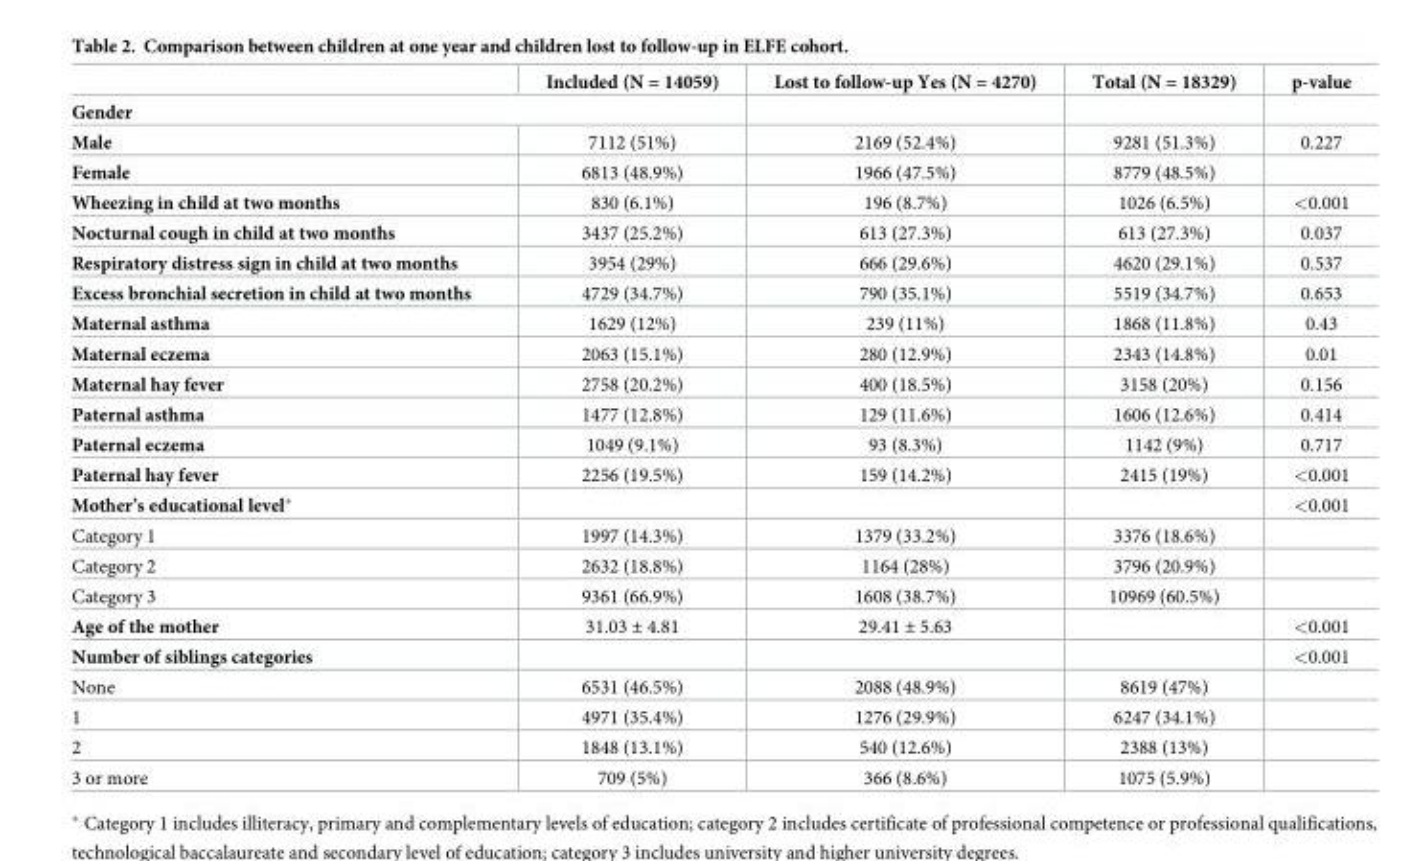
<table><thead><tr><td></td><td>Included (N = 14059)</td><td>Lost to follow-up Yes (N = 4270)</td><td>Total (N = 18329)</td><td>p-value</td></tr></thead><tbody><tr><td colspan="5">Gender</td></tr><tr><td>Male</td><td>7112 (51%)</td><td>2169 (52.4%)</td><td>9281 (51.3%)</td><td>0.227</td></tr><tr><td>Female</td><td>6813 (48.9%)</td><td>1966 (47.5%)</td><td>8779 (48.5%)</td><td></td></tr><tr><td>Wheezing in child at two months</td><td>830 (6.1%)</td><td>196 (8.7%)</td><td>1026 (6.5%)</td><td>&lt;0.001</td></tr><tr><td>Nocturnal cough in child at two months</td><td>3437 (25.2%)</td><td>613 (27.3%)</td><td>613 (27.3%)</td><td>0.037</td></tr><tr><td>Respiratory distress sign in child at two months</td><td>3954 (29%)</td><td>666 (29.6%)</td><td>4620 (29.1%)</td><td>0.537</td></tr><tr><td>Excess bronchial secretion in child at two months</td><td>4729 (34.7%)</td><td>790 (35.1%)</td><td>5519 (34.7%)</td><td>0.653</td></tr><tr><td>Maternal asthma</td><td>1629 (12%)</td><td>239 (11%)</td><td>1868 (11.8%)</td><td>0.43</td></tr><tr><td>Maternal eczema</td><td>2063 (15.1%)</td><td>280 (12.9%)</td><td>2343 (14.8%)</td><td>0.01</td></tr><tr><td>Maternal hay fever</td><td>2758 (20.2%)</td><td>400 (18.5%)</td><td>3158 (20%)</td><td>0.156</td></tr><tr><td>Paternal asthma</td><td>1477 (12.8%)</td><td>129 (11.6%)</td><td>1606 (12.6%)</td><td>0.414</td></tr><tr><td>Paternal eczema</td><td>1049 (9.1%)</td><td>93 (8.3%)</td><td>1142 (9%)</td><td>0.717</td></tr><tr><td>Paternal hay fever</td><td>2256 (19.5%)</td><td>159 (14.2%)</td><td>2415 (19%)</td><td>&lt;0.001</td></tr><tr><td>Mother’s educational level*</td><td></td><td></td><td></td><td>&lt;0.001</td></tr><tr><td>Category 1</td><td>1997 (14.3%)</td><td>1379 (33.2%)</td><td>3376 (18.6%)</td><td></td></tr><tr><td>Category 2</td><td>2632 (18.8%)</td><td>1164 (28%)</td><td>3796 (20.9%)</td><td></td></tr><tr><td>Category 3</td><td>9361 (66.9%)</td><td>1608 (38.7%)</td><td>10969 (60.5%)</td><td></td></tr><tr><td>Age of the mother</td><td>31.03 ± 4.81</td><td>29.41 ± 5.63</td><td></td><td>&lt;0.001</td></tr><tr><td>Number of siblings categories</td><td></td><td></td><td></td><td>&lt;0.001</td></tr><tr><td>None</td><td>6531 (46.5%)</td><td>2088 (48.9%)</td><td>8619 (47%)</td><td></td></tr><tr><td>1</td><td>4971 (35.4%)</td><td>1276 (29.9%)</td><td>6247 (34.1%)</td><td></td></tr><tr><td>2</td><td>1848 (13.1%)</td><td>540 (12.6%)</td><td>2388 (13%)</td><td></td></tr><tr><td>3 or more</td><td>709 (5%)</td><td>366 (8.6%)</td><td>1075 (5.9%)</td><td></td></tr></tbody></table>